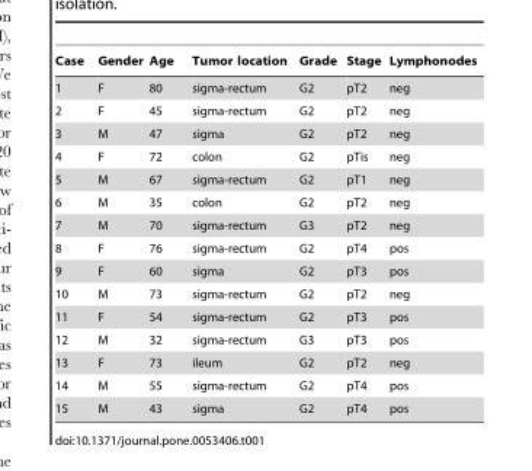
<table><thead><tr><td>Case</td><td>Gender</td><td>Age</td><td>Tumor location</td><td>Grade</td><td>Stage</td><td>Lymphonodes</td></tr></thead><tbody><tr><td>1</td><td>F</td><td>80</td><td>sigma-rectum</td><td>G2</td><td>pT2</td><td>neg</td></tr><tr><td>2</td><td>F</td><td>45</td><td>sigma-rectum</td><td>G2</td><td>pT2</td><td>neg</td></tr><tr><td>3</td><td>M</td><td>47</td><td>sigma</td><td>G2</td><td>pT2</td><td>neg</td></tr><tr><td>4</td><td>F</td><td>72</td><td>colon</td><td>G2</td><td>pTis</td><td>neg</td></tr><tr><td>5</td><td>M</td><td>67</td><td>sigma-rectum</td><td>G2</td><td>pT1</td><td>neg</td></tr><tr><td>6</td><td>M</td><td>35</td><td>colon</td><td>G2</td><td>pT2</td><td>neg</td></tr><tr><td>7</td><td>M</td><td>70</td><td>sigma-rectum</td><td>G3</td><td>pT2</td><td>neg</td></tr><tr><td>8</td><td>F</td><td>76</td><td>sigma-rectum</td><td>G2</td><td>pT4</td><td>pos</td></tr><tr><td>9</td><td>F</td><td>60</td><td>sigma</td><td>G2</td><td>pT3</td><td>pos</td></tr><tr><td>10</td><td>M</td><td>73</td><td>sigma-rectum</td><td>G2</td><td>pT2</td><td>neg</td></tr><tr><td>11</td><td>F</td><td>54</td><td>sigma-rectum</td><td>G2</td><td>pT3</td><td>pos</td></tr><tr><td>12</td><td>M</td><td>32</td><td>sigma-rectum</td><td>G3</td><td>pT3</td><td>pos</td></tr><tr><td>13</td><td>F</td><td>73</td><td>ileum</td><td>G2</td><td>pT2</td><td>neg</td></tr><tr><td>14</td><td>M</td><td>55</td><td>sigma-rectum</td><td>G2</td><td>pT4</td><td>pos</td></tr><tr><td>15</td><td>M</td><td>43</td><td>sigma</td><td>G2</td><td>pT4</td><td>pos</td></tr></tbody></table>